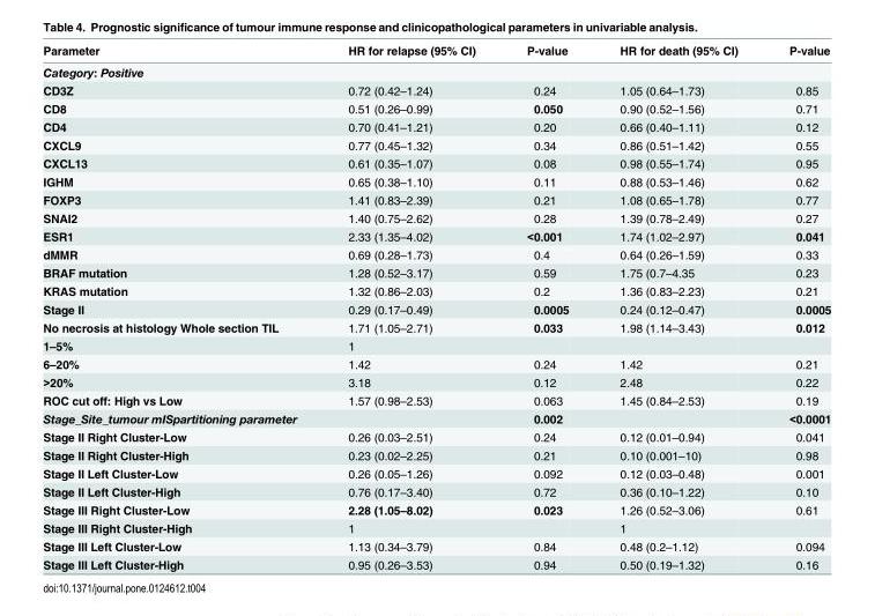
<table><thead><tr><td>Parameter</td><td>HR for relapse (95% CI)</td><td>P-value</td><td>HR for death (95% CI)</td><td>P-value</td></tr></thead><tbody><tr><td colspan="5">Category: Positive</td></tr><tr><td>CD3Z</td><td>0.72 (0.42–1.24)</td><td>0.24</td><td>1.05 (0.64–1.73)</td><td>0.85</td></tr><tr><td>CD8</td><td>0.51 (0.26–0.99)</td><td>0.050</td><td>0.90 (0.52–1.56)</td><td>0.71</td></tr><tr><td>CD4</td><td>0.70 (0.41–1.21)</td><td>0.20</td><td>0.66 (0.40–1.11)</td><td>0.12</td></tr><tr><td>CXCL9</td><td>0.77 (0.45–1.32)</td><td>0.34</td><td>0.86 (0.51–1.42)</td><td>0.55</td></tr><tr><td>CXCL13</td><td>0.61 (0.35–1.07)</td><td>0.08</td><td>0.98 (0.55–1.74)</td><td>0.95</td></tr><tr><td>IGHM</td><td>0.65 (0.38–1.10)</td><td>0.11</td><td>0.88 (0.53–1.46)</td><td>0.62</td></tr><tr><td>FOXP3</td><td>1.41 (0.83–2.39)</td><td>0.21</td><td>1.08 (0.65–1.78)</td><td>0.77</td></tr><tr><td>SNAI2</td><td>1.40 (0.75–2.62)</td><td>0.28</td><td>1.39 (0.78–2.49)</td><td>0.27</td></tr><tr><td>ESR1</td><td>2.33 (1.35–4.02)</td><td>&lt;0.001</td><td>1.74 (1.02–2.97)</td><td>0.041</td></tr><tr><td>dMMR</td><td>0.69 (0.28–1.73)</td><td>0.4</td><td>0.64 (0.26–1.59)</td><td>0.33</td></tr><tr><td>BRAF mutation</td><td>1.28 (0.52–3.17)</td><td>0.59</td><td>1.75 (0.7–4.35</td><td>0.23</td></tr><tr><td>KRAS mutation</td><td>1.32 (0.86–2.03)</td><td>0.2</td><td>1.36 (0.83–2.23)</td><td>0.21</td></tr><tr><td>Stage II</td><td>0.29 (0.17–0.49)</td><td>0.0005</td><td>0.24 (0.12–0.47)</td><td>0.0005</td></tr><tr><td>No necrosis at histology Whole section TIL</td><td>1.71 (1.05–2.71)</td><td>0.033</td><td>1.98 (1.14–3.43)</td><td>0.012</td></tr><tr><td>1–5%</td><td>1</td><td></td><td></td><td></td></tr><tr><td>6–20%</td><td>1.42</td><td>0.24</td><td>1.42</td><td>0.21</td></tr><tr><td>&gt;20%</td><td>3.18</td><td>0.12</td><td>2.48</td><td>0.22</td></tr><tr><td>ROC cut off: High vs Low</td><td>1.57 (0.98–2.53)</td><td>0.063</td><td>1.45 (0.84–2.53)</td><td>0.19</td></tr><tr><td>Stage_Site_tumour mISpartitioning parameter</td><td></td><td>0.002</td><td></td><td>&lt;0.0001</td></tr><tr><td>Stage II Right Cluster-Low</td><td>0.26 (0.03–2.51)</td><td>0.24</td><td>0.12 (0.01–0.94)</td><td>0.041</td></tr><tr><td>Stage II Right Cluster-High</td><td>0.23 (0.02–2.25)</td><td>0.21</td><td>0.10 (0.001–10)</td><td>0.98</td></tr><tr><td>Stage II Left Cluster-Low</td><td>0.26 (0.05–1.26)</td><td>0.092</td><td>0.12 (0.03–0.48)</td><td>0.001</td></tr><tr><td>Stage II Left Cluster-High</td><td>0.76 (0.17–3.40)</td><td>0.72</td><td>0.36 (0.10–1.22)</td><td>0.10</td></tr><tr><td>Stage III Right Cluster-Low</td><td>2.28 (1.05–8.02)</td><td>0.023</td><td>1.26 (0.52–3.06)</td><td>0.61</td></tr><tr><td>Stage III Right Cluster-High</td><td>1</td><td></td><td>1</td><td></td></tr><tr><td>Stage III Left Cluster-Low</td><td>1.13 (0.34–3.79)</td><td>0.84</td><td>0.48 (0.2–1.12)</td><td>0.094</td></tr><tr><td>Stage III Left Cluster-High</td><td>0.95 (0.26–3.53)</td><td>0.94</td><td>0.50 (0.19–1.32)</td><td>0.16</td></tr></tbody></table>